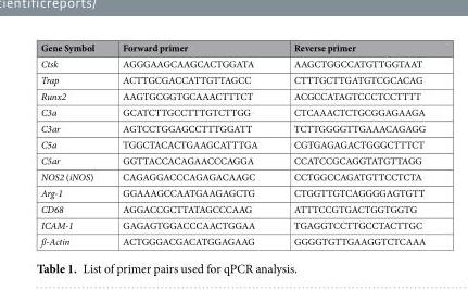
<table><thead><tr><td>Gene Symbol</td><td>Forward primer</td><td>Reverse primer</td></tr></thead><tbody><tr><td>Ctsk</td><td>AGGGAAGCAAGCACTGGATA</td><td>AAGCTGGCCATGTTGGTAAT</td></tr><tr><td>Trap</td><td>ACTTGCGACCATTGTTAGCC</td><td>CTTTGCTTGATGTCGCACAG</td></tr><tr><td>Runx2</td><td>AAGTGCGGTGCAAACTTTCT</td><td>ACGCCATAGTCCCTCCTTTT</td></tr><tr><td>C3a</td><td>GCATCTTGCCTTTGTCTTGG</td><td>CTCAAACTCTGCGGAGAAGA</td></tr><tr><td>C3ar</td><td>AGTCCTGGAGCCTTTGGATT</td><td>TCTTGGGGTTGAAACAGAGG</td></tr><tr><td>C5a</td><td>TGGCTACACTGAAGCATTTGA</td><td>CGTGAGAGACTGGGCTTTCT</td></tr><tr><td>C5ar</td><td>GGTTACCACAGAACCCAGGA</td><td>CCATCCGCAGGTATGTTAGG</td></tr><tr><td>NOS2 (iNOS)</td><td>CAGAGGACCCAGAGACAAGC</td><td>CCTGGCCAGATGTTCCTCTA</td></tr><tr><td>Arg-1</td><td>GGAAAGCCAATGAAGAGCTG</td><td>CTGGTTGTCAGGGGAGTGTT</td></tr><tr><td>CD68</td><td>AGGACCGCTTATAGCCCAAG</td><td>ATTTCCGTGACTGGTGGTG</td></tr><tr><td>ICAM-1</td><td>GAGAGTGGACCCAACTGGAA</td><td>TGAGGTCCTTGCCTACTTGC</td></tr><tr><td>ß-Actin</td><td>ACTGGGACGACATGGAGAAG</td><td>GGGGTGTTGAAGGTCTCAAA</td></tr></tbody></table>